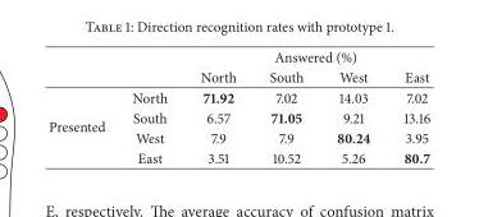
<table><thead><tr><td rowspan="2"></td><td rowspan="2"></td><td colspan="4">Answered (%)</td></tr><tr><td>North</td><td>South</td><td>West</td><td>East</td></tr></thead><tbody><tr><td rowspan="4">Presented</td><td>North</td><td>71.92</td><td>7.02</td><td>14.03</td><td>7.02</td></tr><tr><td>South</td><td>6.57</td><td>71.05</td><td>9.21</td><td>13.16</td></tr><tr><td>West</td><td>7.9</td><td>7.9</td><td>80.24</td><td>3.95</td></tr><tr><td>East</td><td>3.51</td><td>10.52</td><td>5.26</td><td>80.7</td></tr></tbody></table>